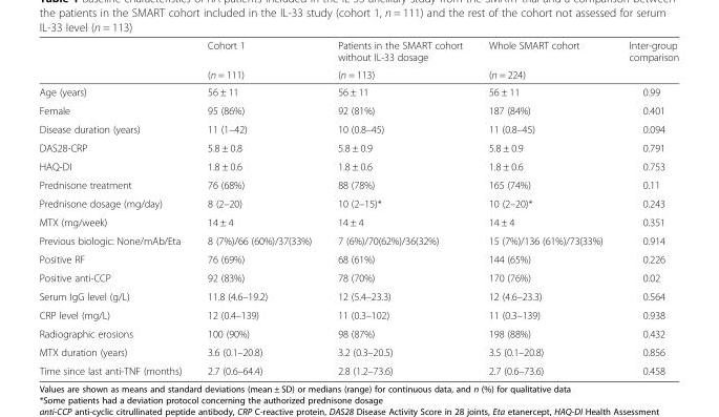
<table><thead><tr><td rowspan="2"></td><td rowspan="2">Cohort 1 (n = 111)</td><td rowspan="2">Patients in the SMART cohort without IL-33 dosage (n = 113)</td><td rowspan="2">Whole SMART cohort (n = 224)</td><td rowspan="2">Inter-group comparison</td></tr><tr></tr></thead><tbody><tr><td>Age (years)</td><td>56 ± 11</td><td>56 ± 11</td><td>56 ± 11</td><td>0.99</td></tr><tr><td>Female</td><td>95 (86%)</td><td>92 (81%)</td><td>187 (84%)</td><td>0.401</td></tr><tr><td>Disease duration (years)</td><td>11 (1–42)</td><td>10 (0.8–45)</td><td>11 (0.8–45)</td><td>0.094</td></tr><tr><td>DAS28-CRP</td><td>5.8 ± 0.8</td><td>5.8 ± 0.9</td><td>5.8 ± 0.9</td><td>0.791</td></tr><tr><td>HAQ-DI</td><td>1.8 ± 0.6</td><td>1.8 ± 0.6</td><td>1.8 ± 0.6</td><td>0.753</td></tr><tr><td>Prednisone treatment</td><td>76 (68%)</td><td>88 (78%)</td><td>165 (74%)</td><td>0.11</td></tr><tr><td>Prednisone dosage (mg/day)</td><td>8 (2–20)</td><td>10 (2–15)*</td><td>10 (2–20)*</td><td>0.243</td></tr><tr><td>MTX (mg/week)</td><td>14 ± 4</td><td>14 ± 4</td><td>14 ± 4</td><td>0.351</td></tr><tr><td>Previous biologic: None/mAb/Eta</td><td>8 (7%)/66 (60%)/37(33%)</td><td>7 (6%)/70(62%)/36(32%)</td><td>15 (7%)/136 (61%)/73(33%)</td><td>0.914</td></tr><tr><td>Positive RF</td><td>76 (69%)</td><td>68 (61%)</td><td>144 (65%)</td><td>0.226</td></tr><tr><td>Positive anti-CCP</td><td>92 (83%)</td><td>78 (70%)</td><td>170 (76%)</td><td>0.02</td></tr><tr><td>Serum IgG level (g/L)</td><td>11.8 (4.6–19.2)</td><td>12 (5.4–23.3)</td><td>12 (4.6–23.3)</td><td>0.564</td></tr><tr><td>CRP level (mg/L)</td><td>12 (0.4–139)</td><td>11 (0.3–102)</td><td>11 (0.3–139)</td><td>0.938</td></tr><tr><td>Radiographic erosions</td><td>100 (90%)</td><td>98 (87%)</td><td>198 (88%)</td><td>0.432</td></tr><tr><td>MTX duration (years)</td><td>3.6 (0.1–20.8)</td><td>3.2 (0.3–20.5)</td><td>3.5 (0.1–20.8)</td><td>0.856</td></tr><tr><td>Time since last anti-TNF (months)</td><td>2.7 (0.6–64.4)</td><td>2.8 (1.2–73.6)</td><td>2.7 (0.6–73.6)</td><td>0.458</td></tr></tbody></table>